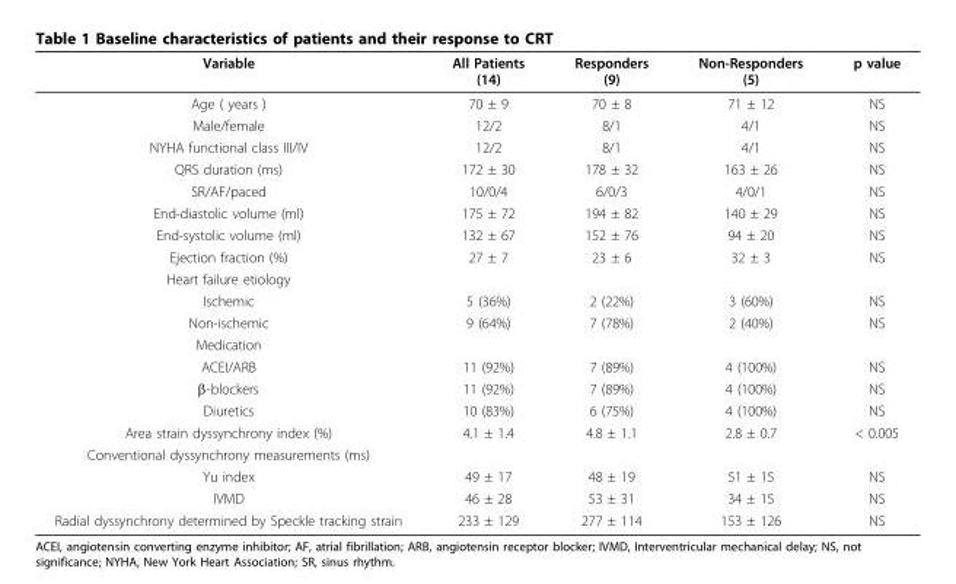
<table><thead><tr><td>Variable</td><td>All Patients (14)</td><td>Responders (9)</td><td>Non-Responders (5)</td><td>p value</td></tr></thead><tbody><tr><td>Age ( years )</td><td>70 ± 9</td><td>70 ± 8</td><td>71 ± 12</td><td>NS</td></tr><tr><td>Male/female</td><td>12/2</td><td>8/1</td><td>4/1</td><td>NS</td></tr><tr><td>NYHA functional class III/IV</td><td>12/2</td><td>8/1</td><td>4/1</td><td>NS</td></tr><tr><td>QRS duration (ms)</td><td>172 ± 30</td><td>178 ± 32</td><td>163 ± 26</td><td>NS</td></tr><tr><td>SR/AF/paced</td><td>10/0/4</td><td>6/0/3</td><td>4/0/1</td><td>NS</td></tr><tr><td>End-diastolic volume (ml)</td><td>175 ± 72</td><td>194 ± 82</td><td>140 ± 29</td><td>NS</td></tr><tr><td>End-systolic volume (ml)</td><td>132 ± 67</td><td>152 ± 76</td><td>94 ± 20</td><td>NS</td></tr><tr><td>Ejection fraction (%)</td><td>27 ± 7</td><td>23 ± 6</td><td>32 ± 3</td><td>NS</td></tr><tr><td colspan="5">Heart failure etiology</td></tr><tr><td>Ischemic</td><td>5 (36%)</td><td>2 (22%)</td><td>3 (60%)</td><td>NS</td></tr><tr><td>Non-ischemic</td><td>9 (64%)</td><td>7 (78%)</td><td>2 (40%)</td><td>NS</td></tr><tr><td colspan="5">Medication</td></tr><tr><td>ACEI/ARB</td><td>11 (92%)</td><td>7 (89%)</td><td>4 (100%)</td><td>NS</td></tr><tr><td>β-blockers</td><td>11 (92%)</td><td>7 (89%)</td><td>4 (100%)</td><td>NS</td></tr><tr><td>Diuretics</td><td>10 (83%)</td><td>6 (75%)</td><td>4 (100%)</td><td>NS</td></tr><tr><td>Area strain dyssynchrony index (%)</td><td>4.1 ± 1.4</td><td>4.8 ± 1.1</td><td>2.8 ± 0.7</td><td>&lt; 0.005</td></tr><tr><td colspan="5">Conventional dyssynchrony measurements (ms)</td></tr><tr><td>Yu index</td><td>49 ± 17</td><td>48 ± 19</td><td>51 ± 15</td><td>NS</td></tr><tr><td>IVMD</td><td>46 ± 28</td><td>53 ± 31</td><td>34 ± 15</td><td>NS</td></tr><tr><td>Radial dyssynchrony determined by Speckle tracking strain</td><td>233 ± 129</td><td>277 ± 114</td><td>153 ± 126</td><td>NS</td></tr></tbody></table>